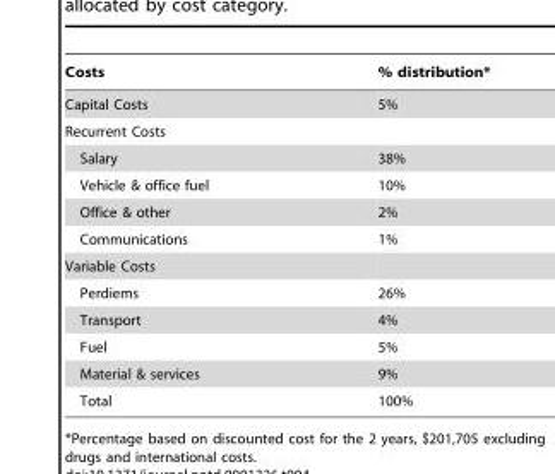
<table><thead><tr><td>Costs</td><td>% distribution*</td></tr></thead><tbody><tr><td>Capital Costs</td><td>5%</td></tr><tr><td colspan="2">Recurrent Costs</td></tr><tr><td>Salary</td><td>38%</td></tr><tr><td>Vehicle &amp; office fuel</td><td>10%</td></tr><tr><td>Office &amp; other</td><td>2%</td></tr><tr><td>Communications</td><td>1%</td></tr><tr><td colspan="2">Variable Costs</td></tr><tr><td>Perdiems</td><td>26%</td></tr><tr><td>Transport</td><td>4%</td></tr><tr><td>Fuel</td><td>5%</td></tr><tr><td>Material &amp; services</td><td>9%</td></tr><tr><td>Total</td><td>100%</td></tr></tbody></table>